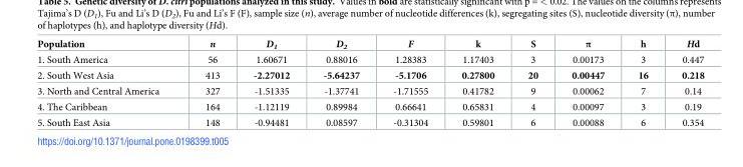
<table><tbody><tr><td>Population</td><td>n</td><td>D<sub>1</sub></td><td>D<sub>2</sub></td><td>F</td><td>k</td><td>S</td><td>π</td><td>h</td><td>Hd</td></tr><tr><td>1. South America</td><td>56</td><td>1.60671</td><td>0.88016</td><td>1.28383</td><td>1.17403</td><td>3</td><td>0.00173</td><td>3</td><td>0.447</td></tr><tr><td>2. South West Asia</td><td>413</td><td>-2.27012</td><td>-5.64237</td><td>-5.1706</td><td>0.27800</td><td>20</td><td>0.00447</td><td>16</td><td>0.218</td></tr><tr><td>3. North and Central America</td><td>327</td><td>-1.51335</td><td>-1.37741</td><td>-1.71555</td><td>0.41782</td><td>9</td><td>0.00062</td><td>7</td><td>0.14</td></tr><tr><td>4. The Caribbean</td><td>164</td><td>-1.12119</td><td>0.89984</td><td>0.66641</td><td>0.65831</td><td>4</td><td>0.00097</td><td>3</td><td>0.19</td></tr><tr><td>5. South East Asia</td><td>148</td><td>-0.94481</td><td>0.08597</td><td>-0.31304</td><td>0.59801</td><td>6</td><td>0.00088</td><td>6</td><td>0.354</td></tr></tbody></table>